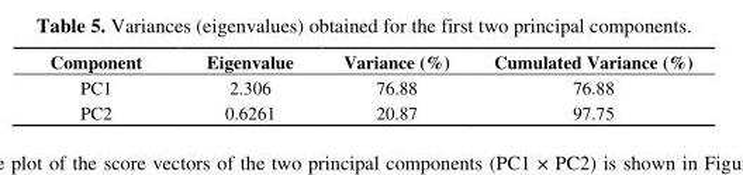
<table><thead><tr><td>Component</td><td>Eigenvalue</td><td>Variance (%)</td><td>Cumulated Variance (%)</td></tr></thead><tbody><tr><td>PC1</td><td>2.306</td><td>76.88</td><td>76.88</td></tr><tr><td>PC2</td><td>0.6261</td><td>20.87</td><td>97.75</td></tr></tbody></table>